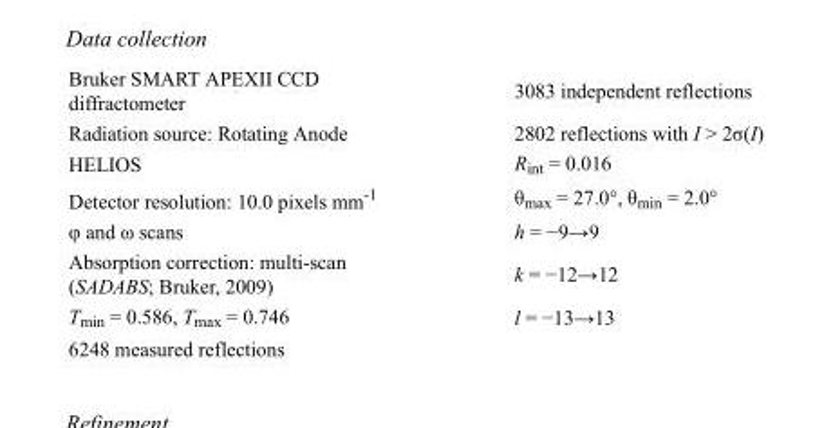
<table><tbody><tr><td>Bruker SMART APEXII CCD diffractometer</td><td>3083 independent reflections</td></tr><tr><td>Radiation source: Rotating Anode</td><td>2802 reflections with I &gt; 2σ(I)</td></tr><tr><td>HELIOS</td><td>R<sub>int</sub> = 0.016</td></tr><tr><td>Detector resolution: 10.0 pixels mm<sup>-1</sup></td><td>θ<sub>max</sub> = 27.0°, θ<sub>min</sub> = 2.0°</td></tr><tr><td>φ and ω scans</td><td>h = −9→9</td></tr><tr><td>Absorption correction: multi-scan (SADABS; Bruker, 2009)</td><td>k = −12→12</td></tr><tr><td>T<sub>min</sub> = 0.586, T<sub>max</sub> = 0.746</td><td>l = −13→13</td></tr><tr><td>6248 measured reflections</td><td></td></tr></tbody></table>